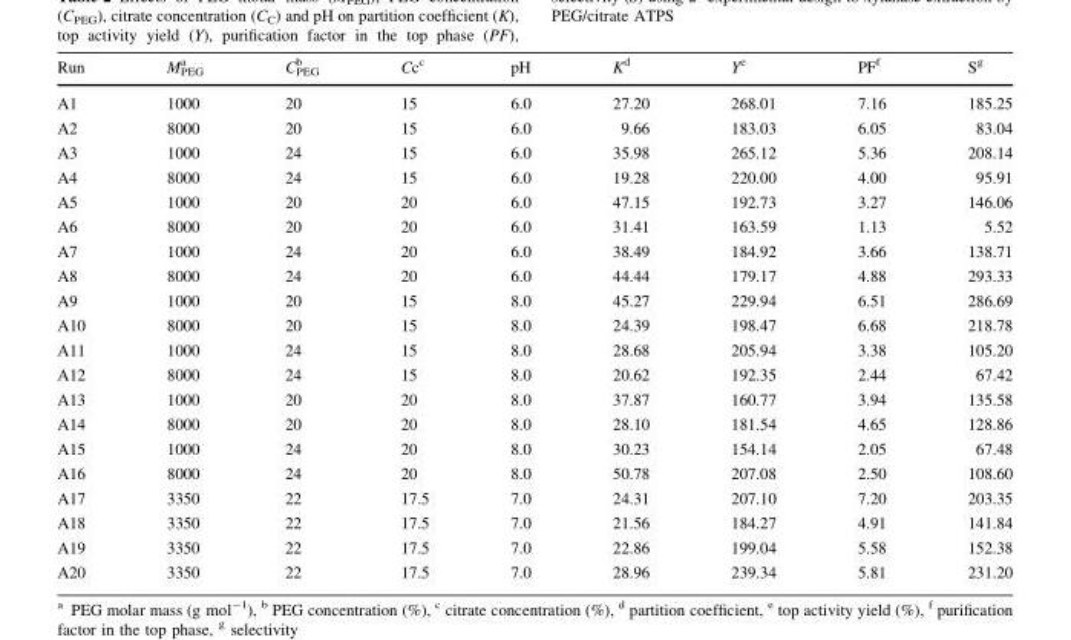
<table><thead><tr><td>Run</td><td>M<sub>PEG</sub> <sup>a</sup></td><td>C<sub>PEG</sub> <sup>b</sup></td><td>Cc<sup>c</sup></td><td>pH</td><td>K<sup>d</sup></td><td>Y<sup>e</sup></td><td>PF<sup>f</sup></td><td>S<sup>g</sup></td></tr></thead><tbody><tr><td>A1</td><td>1000</td><td>20</td><td>15</td><td>6.0</td><td>27.20</td><td>268.01</td><td>7.16</td><td>185.25</td></tr><tr><td>A2</td><td>8000</td><td>20</td><td>15</td><td>6.0</td><td>9.66</td><td>183.03</td><td>6.05</td><td>83.04</td></tr><tr><td>A3</td><td>1000</td><td>24</td><td>15</td><td>6.0</td><td>35.98</td><td>265.12</td><td>5.36</td><td>208.14</td></tr><tr><td>A4</td><td>8000</td><td>24</td><td>15</td><td>6.0</td><td>19.28</td><td>220.00</td><td>4.00</td><td>95.91</td></tr><tr><td>A5</td><td>1000</td><td>20</td><td>20</td><td>6.0</td><td>47.15</td><td>192.73</td><td>3.27</td><td>146.06</td></tr><tr><td>A6</td><td>8000</td><td>20</td><td>20</td><td>6.0</td><td>31.41</td><td>163.59</td><td>1.13</td><td>5.52</td></tr><tr><td>A7</td><td>1000</td><td>24</td><td>20</td><td>6.0</td><td>38.49</td><td>184.92</td><td>3.66</td><td>138.71</td></tr><tr><td>A8</td><td>8000</td><td>24</td><td>20</td><td>6.0</td><td>44.44</td><td>179.17</td><td>4.88</td><td>293.33</td></tr><tr><td>A9</td><td>1000</td><td>20</td><td>15</td><td>8.0</td><td>45.27</td><td>229.94</td><td>6.51</td><td>286.69</td></tr><tr><td>A10</td><td>8000</td><td>20</td><td>15</td><td>8.0</td><td>24.39</td><td>198.47</td><td>6.68</td><td>218.78</td></tr><tr><td>A11</td><td>1000</td><td>24</td><td>15</td><td>8.0</td><td>28.68</td><td>205.94</td><td>3.38</td><td>105.20</td></tr><tr><td>A12</td><td>8000</td><td>24</td><td>15</td><td>8.0</td><td>20.62</td><td>192.35</td><td>2.44</td><td>67.42</td></tr><tr><td>A13</td><td>1000</td><td>20</td><td>20</td><td>8.0</td><td>37.87</td><td>160.77</td><td>3.94</td><td>135.58</td></tr><tr><td>A14</td><td>8000</td><td>20</td><td>20</td><td>8.0</td><td>28.10</td><td>181.54</td><td>4.65</td><td>128.86</td></tr><tr><td>A15</td><td>1000</td><td>24</td><td>20</td><td>8.0</td><td>30.23</td><td>154.14</td><td>2.05</td><td>67.48</td></tr><tr><td>A16</td><td>8000</td><td>24</td><td>20</td><td>8.0</td><td>50.78</td><td>207.08</td><td>2.50</td><td>108.60</td></tr><tr><td>A17</td><td>3350</td><td>22</td><td>17.5</td><td>7.0</td><td>24.31</td><td>207.10</td><td>7.20</td><td>203.35</td></tr><tr><td>A18</td><td>3350</td><td>22</td><td>17.5</td><td>7.0</td><td>21.56</td><td>184.27</td><td>4.91</td><td>141.84</td></tr><tr><td>A19</td><td>3350</td><td>22</td><td>17.5</td><td>7.0</td><td>22.86</td><td>199.04</td><td>5.58</td><td>152.38</td></tr><tr><td>A20</td><td>3350</td><td>22</td><td>17.5</td><td>7.0</td><td>28.96</td><td>239.34</td><td>5.81</td><td>231.20</td></tr></tbody></table>